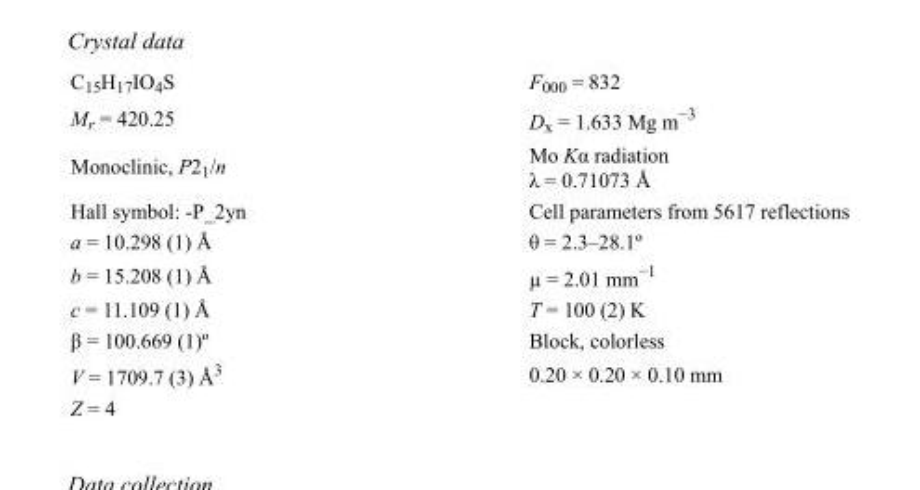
<table><tbody><tr><td>C<sub>15</sub>H<sub>17</sub>IO<sub>4</sub>S</td><td>F000 = 832</td></tr><tr><td>M<sub>r</sub> = 420.25</td><td>D<sub>x</sub> = 1.633 Mg m<sup>−3</sup></td></tr><tr><td>Monoclinic, P2<sub>1</sub>/n</td><td>Mo Kα radiation λ = 0.71073 Å</td></tr><tr><td>Hall symbol: -P_2yn</td><td>Cell parameters from 5617 reflections</td></tr><tr><td>a = 10.298 (1) Å</td><td>θ = 2.3–28.1º</td></tr><tr><td>b = 15.208 (1) Å</td><td>µ = 2.01 mm<sup>−1</sup></td></tr><tr><td>c = 11.109 (1) Å</td><td>T = 100 (2) K</td></tr><tr><td>β = 100.669 (1)º</td><td>Block, colorless</td></tr><tr><td>V = 1709.7 (3) Å<sup>3</sup></td><td>0.20 × 0.20 × 0.10 mm</td></tr><tr><td>Z = 4</td><td></td></tr></tbody></table>